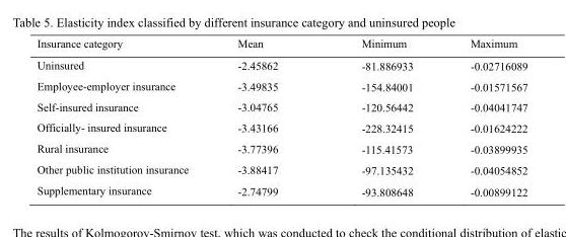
<table><thead><tr><td>Insurance category</td><td>Mean</td><td>Minimum</td><td>Maximum</td></tr></thead><tbody><tr><td>Uninsured</td><td>-2.45862</td><td>-81.886933</td><td>-0.02716089</td></tr><tr><td>Employee-employer insurance</td><td>-3.49835</td><td>-154.84001</td><td>-0.01571567</td></tr><tr><td>Self-insured insurance</td><td>-3.04765</td><td>-120.56442</td><td>-0.04041747</td></tr><tr><td>Officially- insured insurance</td><td>-3.43166</td><td>-228.32415</td><td>-0.01624222</td></tr><tr><td>Rural insurance</td><td>-3.77396</td><td>-115.41573</td><td>-0.03899935</td></tr><tr><td>Other public institution insurance</td><td>-3.88417</td><td>-97.135432</td><td>-0.04054852</td></tr><tr><td>Supplementary insurance</td><td>-2.74799</td><td>-93.808648</td><td>-0.00899122</td></tr></tbody></table>